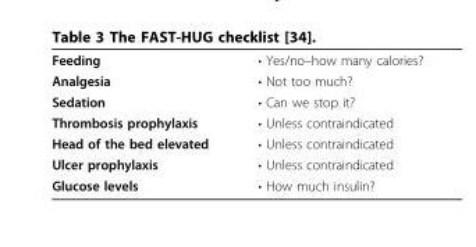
<table><tbody><tr><td>Feeding</td><td>• Yes/no–how many calories?</td></tr><tr><td>Analgesia</td><td>• Not too much?</td></tr><tr><td>Sedation</td><td>• Can we stop it?</td></tr><tr><td>Thrombosis prophylaxis</td><td>• Unless contraindicated</td></tr><tr><td>Head of the bed elevated</td><td>• Unless contraindicated</td></tr><tr><td>Ulcer prophylaxis</td><td>• Unless contraindicated</td></tr><tr><td>Glucose levels</td><td>• How much insulin?</td></tr></tbody></table>